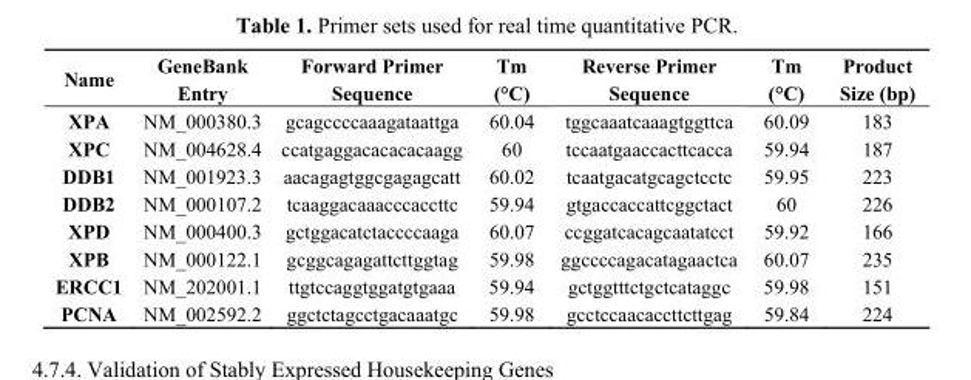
<table><thead><tr><td>Name</td><td>GeneBank Entry</td><td>Forward Primer Sequence</td><td>Tm (°C)</td><td>Reverse Primer Sequence</td><td>Tm (°C)</td><td>Product Size (bp)</td></tr></thead><tbody><tr><td>XPA</td><td>NM_000380.3</td><td>gcagccccaaagataattga</td><td>60.04</td><td>tggcaaatcaaagtggttca</td><td>60.09</td><td>183</td></tr><tr><td>XPC</td><td>NM_004628.4</td><td>ccatgaggacacacacaagg</td><td>60</td><td>tccaatgaaccacttcacca</td><td>59.94</td><td>187</td></tr><tr><td>DDB1</td><td>NM_001923.3</td><td>aacagagtggcgagagcatt</td><td>60.02</td><td>tcaatgacatgcagctcctc</td><td>59.95</td><td>223</td></tr><tr><td>DDB2</td><td>NM_000107.2</td><td>tcaaggacaaacccaccttc</td><td>59.94</td><td>gtgaccaccattcggctact</td><td>60</td><td>226</td></tr><tr><td>XPD</td><td>NM_000400.3</td><td>gctggacatctaccccaaga</td><td>60.07</td><td>ccggatcacagcaatatcct</td><td>59.92</td><td>166</td></tr><tr><td>XPB</td><td>NM_000122.1</td><td>gcggcagagattcttggtag</td><td>59.98</td><td>ggccccagacatagaactca</td><td>60.07</td><td>235</td></tr><tr><td>ERCC1</td><td>NM_202001.1</td><td>ttgtccaggtggatgtgaaa</td><td>59.94</td><td>gctggtttctgctcataggc</td><td>59.98</td><td>151</td></tr><tr><td>PCNA</td><td>NM_002592.2</td><td>ggctctagcctgacaaatgc</td><td>59.98</td><td>gcctccaacaccttcttgag</td><td>59.84</td><td>224</td></tr></tbody></table>